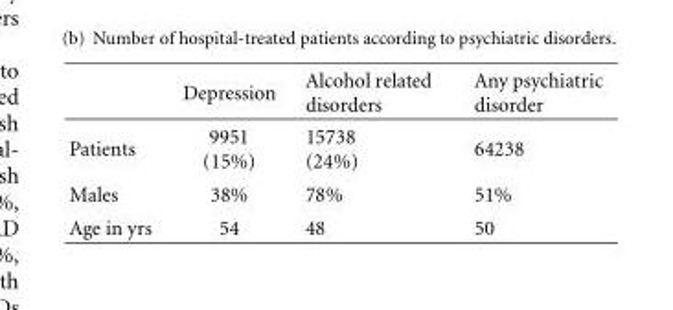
<table><thead><tr><td></td><td>Depression</td><td>Alcohol related disorders</td><td>Any psychiatric disorder</td></tr></thead><tbody><tr><td>Patients</td><td>9951 (15%)</td><td>15738 (24%)</td><td>64238</td></tr><tr><td>Males</td><td>38%</td><td>78%</td><td>51%</td></tr><tr><td>Age in yrs</td><td>54</td><td>48</td><td>50</td></tr></tbody></table>